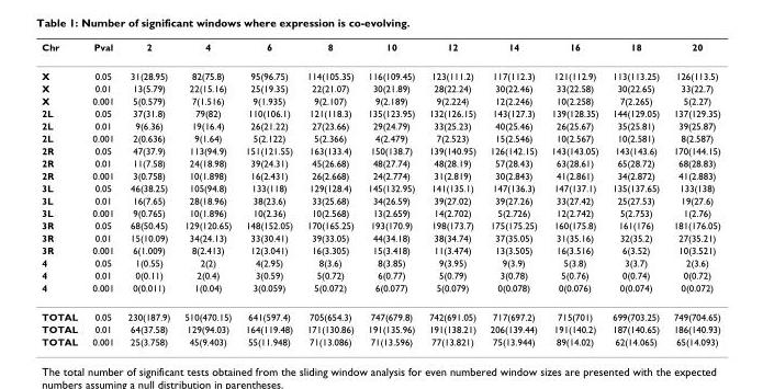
<table><thead><tr><td>Chr</td><td>Pval</td><td>2</td><td>4</td><td>6</td><td>8</td><td>10</td><td>12</td><td>14</td><td>16</td><td>18</td><td>20</td></tr></thead><tbody><tr><td>X</td><td>0.05</td><td>31(28.95)</td><td>82(75.8)</td><td>95(96.75)</td><td>114(105.35)</td><td>116(109.45)</td><td>123(111.2)</td><td>117(112.3)</td><td>121(112.9)</td><td>113(113.25)</td><td>126(113.5)</td></tr><tr><td>X</td><td>0.01</td><td>13(5.79)</td><td>22(15.16)</td><td>25(19.35)</td><td>22(21.07)</td><td>30(21.89)</td><td>28(22.24)</td><td>30(22.46)</td><td>33(22.58)</td><td>30(22.65)</td><td>33(22.7)</td></tr><tr><td>X</td><td>0.001</td><td>5(0.579)</td><td>7(1.516)</td><td>9(1.935)</td><td>9(2.107)</td><td>9(2.189)</td><td>9(2.224)</td><td>12(2.246)</td><td>10(2.258)</td><td>7(2.265)</td><td>5(2.27)</td></tr><tr><td>2L</td><td>0.05</td><td>37(31.8)</td><td>79(82)</td><td>110(106.1)</td><td>121(118.3)</td><td>135(123.95)</td><td>132(126.15)</td><td>143(127.3)</td><td>139(128.35)</td><td>144(129.05)</td><td>137(129.35)</td></tr><tr><td>2L</td><td>0.01</td><td>9(6.36)</td><td>19(16.4)</td><td>26(21.22)</td><td>27(23.66)</td><td>29(24.79)</td><td>33(25.23)</td><td>40(25.46)</td><td>26(25.67)</td><td>35(25.81)</td><td>39(25.87)</td></tr><tr><td>2L</td><td>0.001</td><td>2(0.636)</td><td>9(1.64)</td><td>5(2.122)</td><td>5(2.366)</td><td>4(2.479)</td><td>7(2.523)</td><td>15(2.546)</td><td>10(2.567)</td><td>10(2.581)</td><td>8(2.587)</td></tr><tr><td>2R</td><td>0.05</td><td>47(37.9)</td><td>113(94.9)</td><td>151(121.55)</td><td>163(133.4)</td><td>150(138.7)</td><td>139(140.95)</td><td>126(142.15)</td><td>143(143.05)</td><td>143(143.6)</td><td>170(144.15)</td></tr><tr><td>2R</td><td>0.01</td><td>11(7.58)</td><td>24(18.98)</td><td>39(24.31)</td><td>45(26.68)</td><td>48(27.74)</td><td>48(28.19)</td><td>57(28.43)</td><td>63(28.61)</td><td>65(28.72)</td><td>68(28.83)</td></tr><tr><td>2R</td><td>0.001</td><td>3(0.758)</td><td>10(1.898)</td><td>16(2.431)</td><td>26(2.668)</td><td>24(2.774)</td><td>31(2.819)</td><td>30(2.843)</td><td>41(2.861)</td><td>34(2.872)</td><td>41(2.883)</td></tr><tr><td>3L</td><td>0.05</td><td>46(38.25)</td><td>105(94.8)</td><td>133(118)</td><td>129(128.4)</td><td>145(132.95)</td><td>141(135.1)</td><td>147(136.3)</td><td>147(137.1)</td><td>135(137.65)</td><td>133(138)</td></tr><tr><td>3L</td><td>0.01</td><td>16(7.65)</td><td>28(18.96)</td><td>38(23.6)</td><td>33(25.68)</td><td>34(26.59)</td><td>39(27.02)</td><td>39(27.26)</td><td>33(27.42)</td><td>25(27.53)</td><td>19(27.6)</td></tr><tr><td>3L</td><td>0.001</td><td>9(0.765)</td><td>10(1.896)</td><td>10(2.36)</td><td>10(2.568)</td><td>13(2.659)</td><td>14(2.702)</td><td>5(2.726)</td><td>12(2.742)</td><td>5(2.753)</td><td>1(2.76)</td></tr><tr><td>3R</td><td>0.05</td><td>68(50.45)</td><td>129(120.65)</td><td>148(152.05)</td><td>170(165.25)</td><td>193(170.9)</td><td>198(173.7)</td><td>175(175.25)</td><td>160(175.8)</td><td>161(176)</td><td>181(176.05)</td></tr><tr><td>3R</td><td>0.01</td><td>15(10.09)</td><td>34(24.13)</td><td>33(30.41)</td><td>39(33.05)</td><td>44(34.18)</td><td>38(34.74)</td><td>37(35.05)</td><td>31(35.16)</td><td>32(35.2)</td><td>27(35.21)</td></tr><tr><td>3R</td><td>0.001</td><td>6(1.009)</td><td>8(2.413)</td><td>12(3.041)</td><td>16(3.305)</td><td>15(3.418)</td><td>11(3.474)</td><td>13(3.505)</td><td>16(3.516)</td><td>6(3.52)</td><td>10(3.521)</td></tr><tr><td>4</td><td>0.05</td><td>1(0.55)</td><td>2(2)</td><td>4(2.95)</td><td>8(3.6)</td><td>8(3.85)</td><td>9(3.95)</td><td>9(3.9)</td><td>5(3.8)</td><td>3(3.7)</td><td>2(3.6)</td></tr><tr><td>4</td><td>0.01</td><td>0(0.11)</td><td>2(0.4)</td><td>3(0.59)</td><td>5(0.72)</td><td>6(0.77)</td><td>5(0.79)</td><td>3(0.78)</td><td>5(0.76)</td><td>0(0.74)</td><td>0(0.72)</td></tr><tr><td>4</td><td>0.001</td><td>0(0.011)</td><td>1(0.04)</td><td>3(0.059)</td><td>5(0.072)</td><td>6(0.077)</td><td>5(0.079)</td><td>0(0.078)</td><td>0(0.076)</td><td>0(0.074)</td><td>0(0.072)</td></tr><tr><td>TOTAL</td><td>0.05</td><td>230(187.9)</td><td>510(470.15)</td><td>641(597.4)</td><td>705(654.3)</td><td>747(679.8)</td><td>742(691.05)</td><td>717(697.2)</td><td>715(701)</td><td>699(703.25)</td><td>749(704.65)</td></tr><tr><td>TOTAL</td><td>0.01</td><td>64(37.58)</td><td>129(94.03)</td><td>164(119.48)</td><td>171(130.86)</td><td>191(135.96)</td><td>191(138.21)</td><td>206(139.44)</td><td>191(140.2)</td><td>187(140.65)</td><td>186(140.93)</td></tr><tr><td>TOTAL</td><td>0.001</td><td>25(3.758)</td><td>45(9.403)</td><td>55(11.948)</td><td>71(13.086)</td><td>71(13.596)</td><td>77(13.821)</td><td>75(13.944)</td><td>89(14.02)</td><td>62(14.065)</td><td>65(14.093)</td></tr></tbody></table>